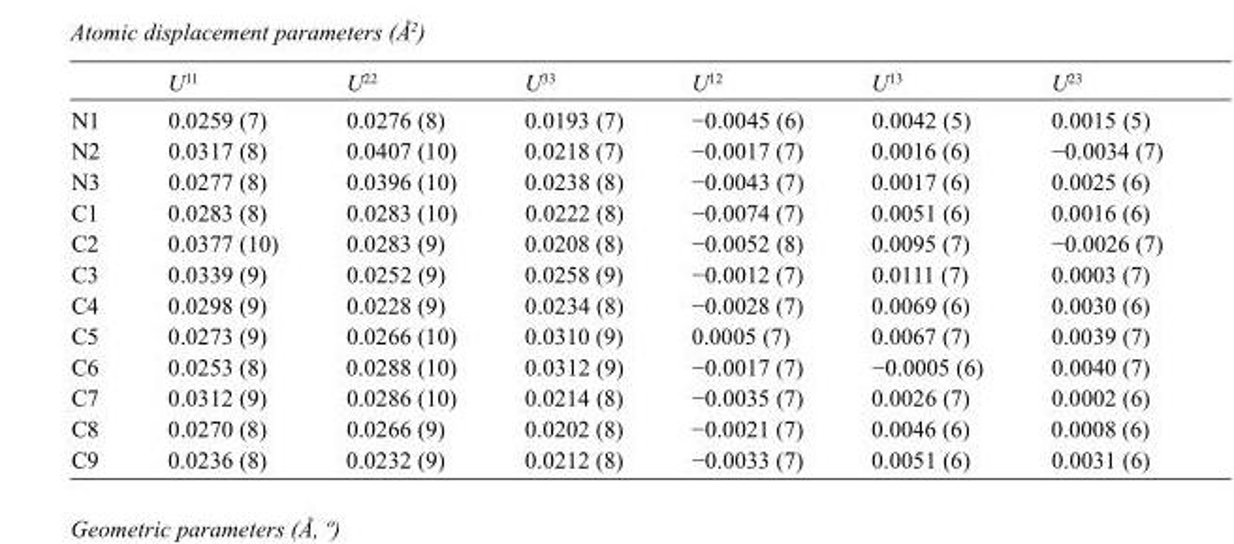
<table><thead><tr><td></td><td>U<sup>11</sup></td><td>U<sup>22</sup></td><td>U<sup>33</sup></td><td>U<sup>12</sup></td><td>U<sup>13</sup></td><td>U<sup>23</sup></td></tr></thead><tbody><tr><td>N1</td><td>0.0259 (7)</td><td>0.0276 (8)</td><td>0.0193 (7)</td><td>−0.0045 (6)</td><td>0.0042 (5)</td><td>0.0015 (5)</td></tr><tr><td>N2</td><td>0.0317 (8)</td><td>0.0407 (10)</td><td>0.0218 (7)</td><td>−0.0017 (7)</td><td>0.0016 (6)</td><td>−0.0034 (7)</td></tr><tr><td>N3</td><td>0.0277 (8)</td><td>0.0396 (10)</td><td>0.0238 (8)</td><td>−0.0043 (7)</td><td>0.0017 (6)</td><td>0.0025 (6)</td></tr><tr><td>C1</td><td>0.0283 (8)</td><td>0.0283 (10)</td><td>0.0222 (8)</td><td>−0.0074 (7)</td><td>0.0051 (6)</td><td>0.0016 (6)</td></tr><tr><td>C2</td><td>0.0377 (10)</td><td>0.0283 (9)</td><td>0.0208 (8)</td><td>−0.0052 (8)</td><td>0.0095 (7)</td><td>−0.0026 (7)</td></tr><tr><td>C3</td><td>0.0339 (9)</td><td>0.0252 (9)</td><td>0.0258 (9)</td><td>−0.0012 (7)</td><td>0.0111 (7)</td><td>0.0003 (7)</td></tr><tr><td>C4</td><td>0.0298 (9)</td><td>0.0228 (9)</td><td>0.0234 (8)</td><td>−0.0028 (7)</td><td>0.0069 (6)</td><td>0.0030 (6)</td></tr><tr><td>C5</td><td>0.0273 (9)</td><td>0.0266 (10)</td><td>0.0310 (9)</td><td>0.0005 (7)</td><td>0.0067 (7)</td><td>0.0039 (7)</td></tr><tr><td>C6</td><td>0.0253 (8)</td><td>0.0288 (10)</td><td>0.0312 (9)</td><td>−0.0017 (7)</td><td>−0.0005 (6)</td><td>0.0040 (7)</td></tr><tr><td>C7</td><td>0.0312 (9)</td><td>0.0286 (10)</td><td>0.0214 (8)</td><td>−0.0035 (7)</td><td>0.0026 (7)</td><td>0.0002 (6)</td></tr><tr><td>C8</td><td>0.0270 (8)</td><td>0.0266 (9)</td><td>0.0202 (8)</td><td>−0.0021 (7)</td><td>0.0046 (6)</td><td>0.0008 (6)</td></tr><tr><td>C9</td><td>0.0236 (8)</td><td>0.0232 (9)</td><td>0.0212 (8)</td><td>−0.0033 (7)</td><td>0.0051 (6)</td><td>0.0031 (6)</td></tr></tbody></table>